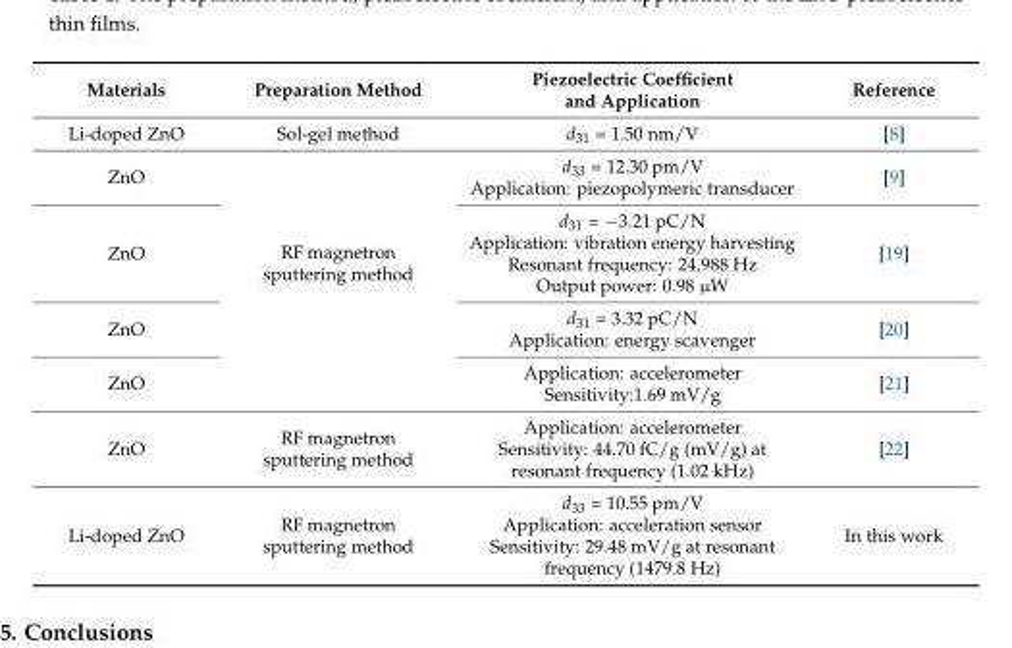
<table><thead><tr><td>Materials</td><td>Preparation Method</td><td>Piezoelectric Coefficient and Application</td><td>Reference</td></tr></thead><tbody><tr><td>Li-doped ZnO</td><td>Sol-gel method</td><td>d<sub>31</sub> = 1.50 nm/V</td><td>[8]</td></tr><tr><td>ZnO</td><td rowspan="4">RF magnetron sputtering method</td><td>d<sub>33</sub> = 12.30 pm/V Application: piezopolymeric transducer</td><td>[9]</td></tr><tr><td>ZnO</td><td>d<sub>31</sub> = −3.21 pC/N Application: vibration energy harvesting Resonant frequency: 24,988 Hz Output power: 0.98 µW</td><td>[19]</td></tr><tr><td>ZnO</td><td>d<sub>31</sub> = 3.32 pC/N Application: energy scavenger</td><td>[20]</td></tr><tr><td>ZnO</td><td>Application: accelerometer Sensitivity:1.69 mV/g</td><td>[21]</td></tr><tr><td>ZnO</td><td>RF magnetron sputtering method</td><td>Application: accelerometer Sensitivity: 44.70 fC/g (mV/g) at resonant frequency (1.02 kHz)</td><td>[22]</td></tr><tr><td>Li-doped ZnO</td><td>RF magnetron sputtering method</td><td>d<sub>33</sub> = 10.55 pm/V Application: acceleration sensor Sensitivity: 29.48 mV/g at resonant frequency (1479.8 Hz)</td><td>In this work</td></tr></tbody></table>